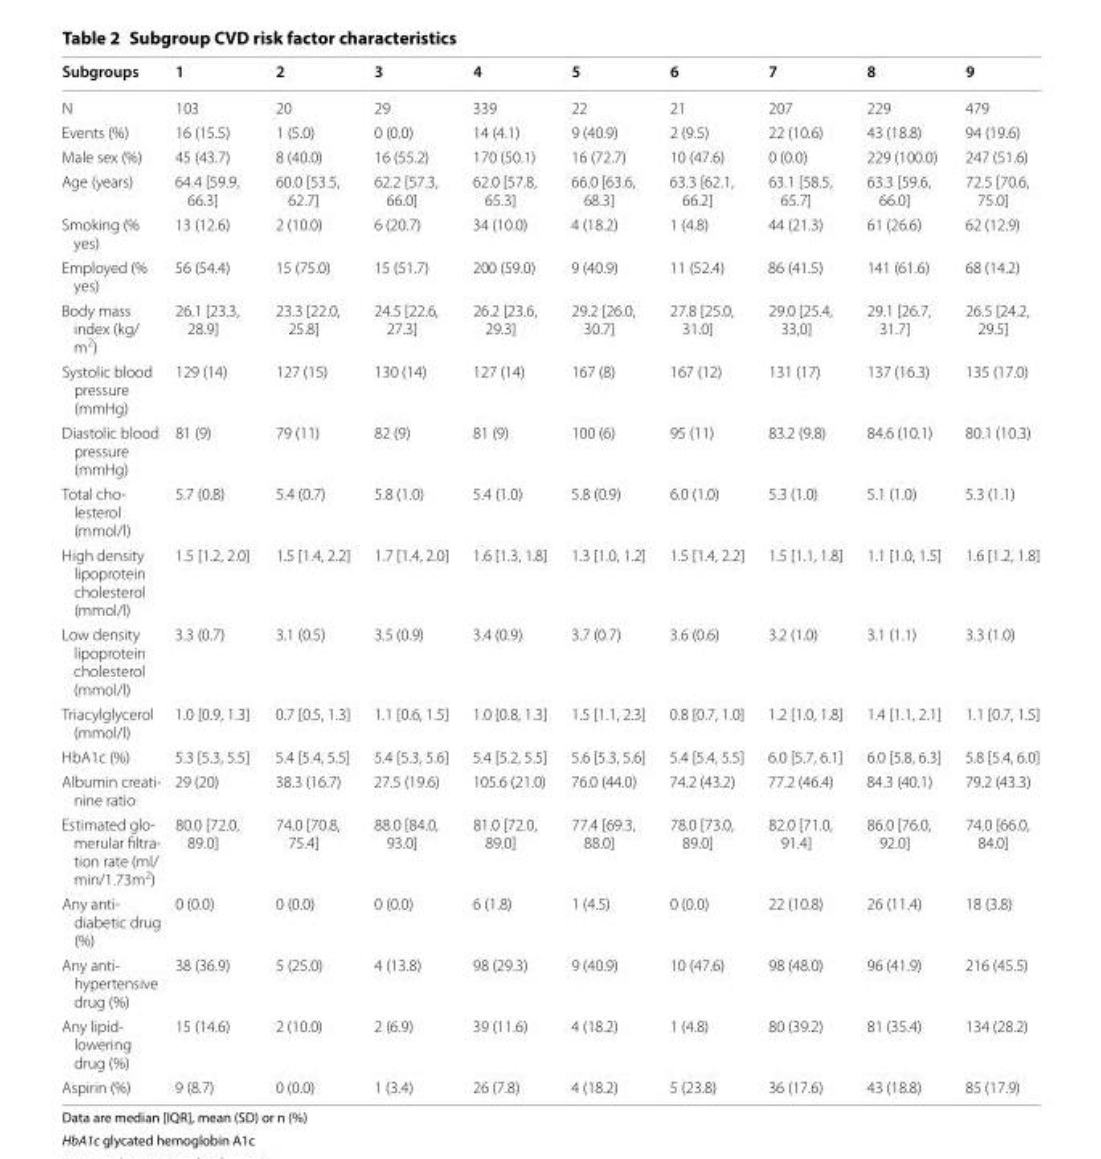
<table><thead><tr><td>Subgroups</td><td>1</td><td>2</td><td>3</td><td>4</td><td>5</td><td>6</td><td>7</td><td>8</td><td>9</td></tr></thead><tbody><tr><td>N</td><td>103</td><td>20</td><td>29</td><td>339</td><td>22</td><td>21</td><td>207</td><td>229</td><td>479</td></tr><tr><td>Events (%)</td><td>16 (15.5)</td><td>1 (5.0)</td><td>0 (0.0)</td><td>14 (4.1)</td><td>9 (40.9)</td><td>2 (9.5)</td><td>22 (10.6)</td><td>43 (18.8)</td><td>94 (19.6)</td></tr><tr><td>Male sex (%)</td><td>45 (43.7)</td><td>8 (40.0)</td><td>16 (55.2)</td><td>170 (50.1)</td><td>16 (72.7)</td><td>10 (47.6)</td><td>0 (0.0)</td><td>229 (100.0)</td><td>247 (51.6)</td></tr><tr><td>Age (years)</td><td>64.4 [59.9, 66.3]</td><td>60.0 [53.5, 62.7]</td><td>62.2 [57.3, 66.0]</td><td>62.0 [57.8, 65.3]</td><td>66.0 [63.6, 68.3]</td><td>63.3 [62.1, 66.2]</td><td>63.1 [58.5, 65.7]</td><td>63.3 [59.6, 66.0]</td><td>72.5 [70.6, 75.0]</td></tr><tr><td>Smoking (% yes)</td><td>13 (12.6)</td><td>2 (10.0)</td><td>6 (20.7)</td><td>34 (10.0)</td><td>4 (18.2)</td><td>1 (4.8)</td><td>44 (21.3)</td><td>61 (26.6)</td><td>62 (12.9)</td></tr><tr><td>Employed (% yes)</td><td>56 (54.4)</td><td>15 (75.0)</td><td>15 (51.7)</td><td>200 (59.0)</td><td>9 (40.9)</td><td>11 (52.4)</td><td>86 (41.5)</td><td>141 (61.6)</td><td>68 (14.2)</td></tr><tr><td>Body mass index (kg/ m<sup>2</sup>)</td><td>26.1 [23.3, 28.9]</td><td>23.3 [22.0, 25.8]</td><td>24.5 [22.6, 27.3]</td><td>26.2 [23.6, 29.3]</td><td>29.2 [26.0, 30.7]</td><td>27.8 [25.0, 31.0]</td><td>29.0 [25.4, 33,0]</td><td>29.1 [26.7, 31.7]</td><td>26.5 [24.2, 29.5]</td></tr><tr><td>Systolic blood pressure (mmHg)</td><td>129 (14)</td><td>127 (15)</td><td>130 (14)</td><td>127 (14)</td><td>167 (8)</td><td>167 (12)</td><td>131 (17)</td><td>137 (16.3)</td><td>135 (17.0)</td></tr><tr><td>Diastolic blood pressure (mmHg)</td><td>81 (9)</td><td>79 (11)</td><td>82 (9)</td><td>81 (9)</td><td>100 (6)</td><td>95 (11)</td><td>83.2 (9.8)</td><td>84.6 (10.1)</td><td>80.1 (10.3)</td></tr><tr><td>Total cho‑ lesterol (mmol/l)</td><td>5.7 (0.8)</td><td>5.4 (0.7)</td><td>5.8 (1.0)</td><td>5.4 (1.0)</td><td>5.8 (0.9)</td><td>6.0 (1.0)</td><td>5.3 (1.0)</td><td>5.1 (1.0)</td><td>5.3 (1.1)</td></tr><tr><td>High density lipoprotein cholesterol (mmol/l)</td><td>1.5 [1.2, 2.0]</td><td>1.5 [1.4, 2.2]</td><td>1.7 [1.4, 2.0]</td><td>1.6 [1.3, 1.8]</td><td>1.3 [1.0, 1.2]</td><td>1.5 [1.4, 2.2]</td><td>1.5 [1.1, 1.8]</td><td>1.1 [1.0, 1.5]</td><td>1.6 [1.2, 1.8]</td></tr><tr><td>Low density lipoprotein cholesterol (mmol/l)</td><td>3.3 (0.7)</td><td>3.1 (0.5)</td><td>3.5 (0.9)</td><td>3.4 (0.9)</td><td>3.7 (0.7)</td><td>3.6 (0.6)</td><td>3.2 (1.0)</td><td>3.1 (1.1)</td><td>3.3 (1.0)</td></tr><tr><td>Triacylglycerol (mmol/l)</td><td>1.0 [0.9, 1.3]</td><td>0.7 [0.5, 1.3]</td><td>1.1 [0.6, 1.5]</td><td>1.0 [0.8, 1.3]</td><td>1.5 [1.1, 2.3]</td><td>0.8 [0.7, 1.0]</td><td>1.2 [1.0, 1.8]</td><td>1.4 [1.1, 2.1]</td><td>1.1 [0.7, 1.5]</td></tr><tr><td>HbA1c (%)</td><td>5.3 [5.3, 5.5]</td><td>5.4 [5.4, 5.5]</td><td>5.4 [5.3, 5.6]</td><td>5.4 [5.2, 5.5]</td><td>5.6 [5.3, 5.6]</td><td>5.4 [5.4, 5.5]</td><td>6.0 [5.7, 6.1]</td><td>6.0 [5.8, 6.3]</td><td>5.8 [5.4, 6.0]</td></tr><tr><td>Albumin creati‑ nine ratio</td><td>29 (20)</td><td>38.3 (16.7)</td><td>27.5 (19.6)</td><td>105.6 (21.0)</td><td>76.0 (44.0)</td><td>74.2 (43.2)</td><td>77.2 (46.4)</td><td>84.3 (40.1)</td><td>79.2 (43.3)</td></tr><tr><td>Estimated glo‑ merular filtra‑ tion rate (ml/ min/1.73m2)</td><td>80.0 [72.0, 89.0]</td><td>74.0 [70.8, 75.4]</td><td>88.0 [84.0, 93.0]</td><td>81.0 [72.0, 89.0]</td><td>77.4 [69.3, 88.0]</td><td>78.0 [73.0, 89.0]</td><td>82.0 [71.0, 91.4]</td><td>86.0 [76.0, 92.0]</td><td>74.0 [66.0, 84.0]</td></tr><tr><td>Any anti‑ diabetic drug (%)</td><td>0 (0.0)</td><td>0 (0.0)</td><td>0 (0.0)</td><td>6 (1.8)</td><td>1 (4.5)</td><td>0 (0.0)</td><td>22 (10.8)</td><td>26 (11.4)</td><td>18 (3.8)</td></tr><tr><td>Any anti‑ hypertensive drug (%)</td><td>38 (36.9)</td><td>5 (25.0)</td><td>4 (13.8)</td><td>98 (29.3)</td><td>9 (40.9)</td><td>10 (47.6)</td><td>98 (48.0)</td><td>96 (41.9)</td><td>216 (45.5)</td></tr><tr><td>Any lipid‑ lowering drug (%)</td><td>15 (14.6)</td><td>2 (10.0)</td><td>2 (6.9)</td><td>39 (11.6)</td><td>4 (18.2)</td><td>1 (4.8)</td><td>80 (39.2)</td><td>81 (35.4)</td><td>134 (28.2)</td></tr><tr><td>Aspirin (%)</td><td>9 (8.7)</td><td>0 (0.0)</td><td>1 (3.4)</td><td>26 (7.8)</td><td>4 (18.2)</td><td>5 (23.8)</td><td>36 (17.6)</td><td>43 (18.8)</td><td>85 (17.9)</td></tr></tbody></table>